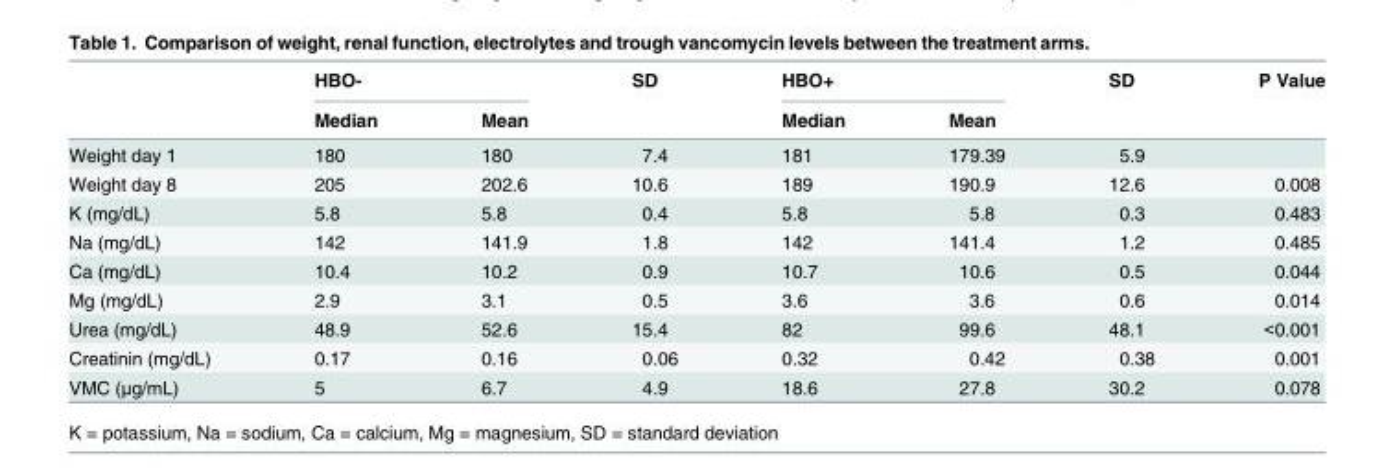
<table><thead><tr><td rowspan="2"></td><td colspan="2">HBO-</td><td rowspan="2">SD</td><td colspan="2">HBO+</td><td rowspan="2">SD</td><td rowspan="2">P Value</td></tr><tr><td>Median</td><td>Mean</td><td>Median</td><td>Mean</td></tr></thead><tbody><tr><td>Weight day 1</td><td>180</td><td>180</td><td>7.4</td><td>181</td><td>179.39</td><td>5.9</td><td></td></tr><tr><td>Weight day 8</td><td>205</td><td>202.6</td><td>10.6</td><td>189</td><td>190.9</td><td>12.6</td><td>0.008</td></tr><tr><td>K (mg/dL)</td><td>5.8</td><td>5.8</td><td>0.4</td><td>5.8</td><td>5.8</td><td>0.3</td><td>0.483</td></tr><tr><td>Na (mg/dL)</td><td>142</td><td>141.9</td><td>1.8</td><td>142</td><td>141.4</td><td>1.2</td><td>0.485</td></tr><tr><td>Ca (mg/dL)</td><td>10.4</td><td>10.2</td><td>0.9</td><td>10.7</td><td>10.6</td><td>0.5</td><td>0.044</td></tr><tr><td>Mg (mg/dL)</td><td>2.9</td><td>3.1</td><td>0.5</td><td>3.6</td><td>3.6</td><td>0.6</td><td>0.014</td></tr><tr><td>Urea (mg/dL)</td><td>48.9</td><td>52.6</td><td>15.4</td><td>82</td><td>99.6</td><td>48.1</td><td>&lt;0.001</td></tr><tr><td>Creatinin (mg/dL)</td><td>0.17</td><td>0.16</td><td>0.06</td><td>0.32</td><td>0.42</td><td>0.38</td><td>0.001</td></tr><tr><td>VMC (μg/mL)</td><td>5</td><td>6.7</td><td>4.9</td><td>18.6</td><td>27.8</td><td>30.2</td><td>0.078</td></tr></tbody></table>